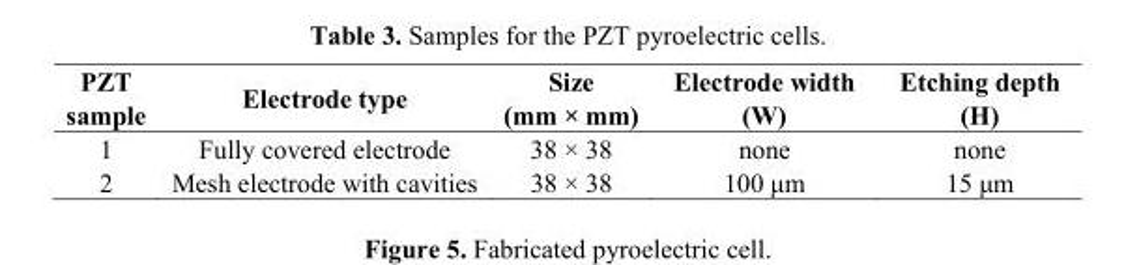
<table><thead><tr><td>PZT sample</td><td>Electrode type</td><td>Size (mm × mm)</td><td>Electrode width (W)</td><td>Etching depth (H)</td></tr></thead><tbody><tr><td>1</td><td>Fully covered electrode</td><td>38 × 38</td><td>none</td><td>none</td></tr><tr><td>2</td><td>Mesh electrode with cavities</td><td>38 × 38</td><td>100 μm</td><td>15 μm</td></tr></tbody></table>